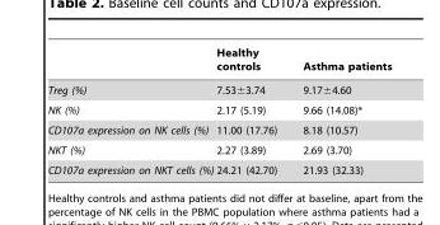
<table><thead><tr><td></td><td>Healthy controls</td><td>Asthma patients</td></tr></thead><tbody><tr><td>Treg (%)</td><td>7.53±3.74</td><td>9.17±4.60</td></tr><tr><td>NK (%)</td><td>2.17 (5.19)</td><td>9.66 (14.08)*</td></tr><tr><td>CD107a expression on NK cells (%)</td><td>11.00 (17.76)</td><td>8.18 (10.57)</td></tr><tr><td>NKT (%)</td><td>2.27 (3.89)</td><td>2.69 (3.70)</td></tr><tr><td>CD107a expression on NKT cells (%)</td><td>24.21 (42.70)</td><td>21.93 (32.33)</td></tr></tbody></table>